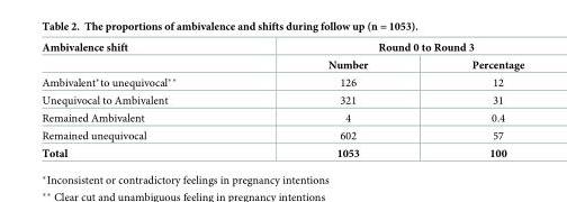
<table><thead><tr><td rowspan="2">Ambivalence shift</td><td colspan="2">Round 0 to Round 3</td></tr><tr><td>Number</td><td>Percentage</td></tr></thead><tbody><tr><td>Ambivalent*to unequivocal**</td><td>126</td><td>12</td></tr><tr><td>Unequivocal to Ambivalent</td><td>321</td><td>31</td></tr><tr><td>Remained Ambivalent</td><td>4</td><td>0.4</td></tr><tr><td>Remained unequivocal</td><td>602</td><td>57</td></tr><tr><td>Total</td><td>1053</td><td>100</td></tr></tbody></table>